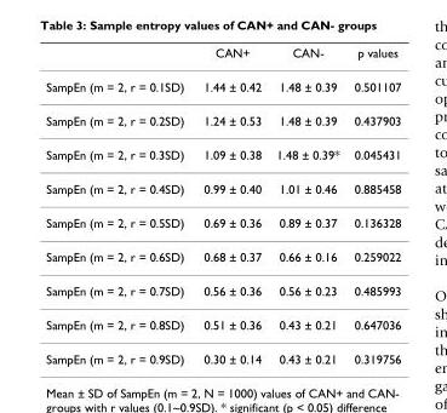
<table><thead><tr><td></td><td>CAN+</td><td>CAN-</td><td>p values</td></tr></thead><tbody><tr><td>SampEn (m = 2, r = 0.1SD)</td><td>1.44 ± 0.42</td><td>1.48 ± 0.39</td><td>0.501107</td></tr><tr><td>SampEn (m = 2, r = 0.2SD)</td><td>1.24 ± 0.53</td><td>1.48 ± 0.39</td><td>0.437903</td></tr><tr><td>SampEn (m = 2, r = 0.3SD)</td><td>1.09 ± 0.38</td><td>1.48 ± 0.39*</td><td>0.045431</td></tr><tr><td>SampEn (m = 2, r = 0.4SD)</td><td>0.99 ± 0.40</td><td>1.01 ± 0.46</td><td>0.885458</td></tr><tr><td>SampEn (m = 2, r = 0.5SD)</td><td>0.69 ± 0.36</td><td>0.89 ± 0.37</td><td>0.136328</td></tr><tr><td>SampEn (m = 2, r = 0.6SD)</td><td>0.68 ± 0.37</td><td>0.66 ± 0.16</td><td>0.259022</td></tr><tr><td>SampEn (m = 2, r = 0.7SD)</td><td>0.56 ± 0.36</td><td>0.56 ± 0.23</td><td>0.485993</td></tr><tr><td>SampEn (m = 2, r = 0.8SD)</td><td>0.51 ± 0.36</td><td>0.43 ± 0.21</td><td>0.647036</td></tr><tr><td>SampEn (m = 2, r = 0.9SD)</td><td>0.30 ± 0.14</td><td>0.43 ± 0.21</td><td>0.319756</td></tr></tbody></table>